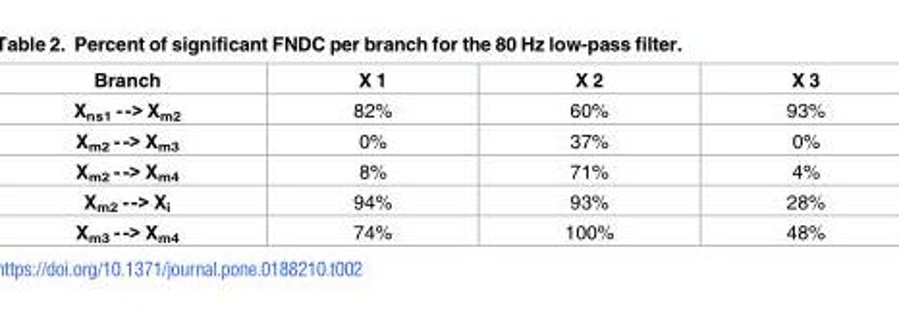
<table><thead><tr><td>Branch</td><td>X 1</td><td>X 2</td><td>X 3</td></tr></thead><tbody><tr><td>X<sub>ns1</sub> --&gt; X<sub>m2</sub></td><td>82%</td><td>60%</td><td>93%</td></tr><tr><td>X<sub>m2</sub> --&gt; X<sub>m3</sub></td><td>0%</td><td>37%</td><td>0%</td></tr><tr><td>X<sub>m2</sub> --&gt; X<sub>m4</sub></td><td>8%</td><td>71%</td><td>4%</td></tr><tr><td>X<sub>m2</sub> --&gt; X<sub>i</sub></td><td>94%</td><td>93%</td><td>28%</td></tr><tr><td>X<sub>m3</sub> --&gt; X<sub>m4</sub></td><td>74%</td><td>100%</td><td>48%</td></tr></tbody></table>